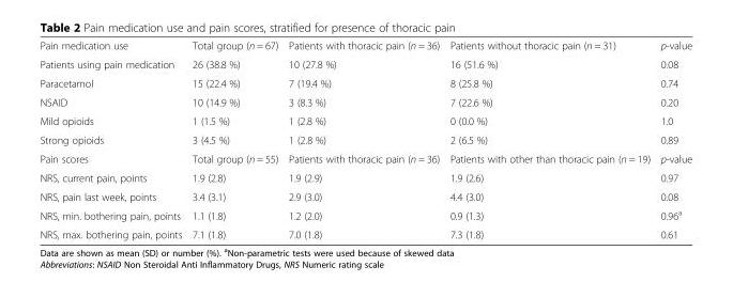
<table><tbody><tr><td>Pain medication use</td><td>Total group (n = 67)</td><td>Patients with thoracic pain (n = 36)</td><td>Patients without thoracic pain (n = 31)</td><td>p-value</td></tr><tr><td>Patients using pain medication</td><td>26 (38.8 %)</td><td>10 (27.8 %)</td><td>16 (51.6 %)</td><td>0.08</td></tr><tr><td>Paracetamol</td><td>15 (22.4 %)</td><td>7 (19.4 %)</td><td>8 (25.8 %)</td><td>0.74</td></tr><tr><td>NSAID</td><td>10 (14.9 %)</td><td>3 (8.3 %)</td><td>7 (22.6 %)</td><td>0.20</td></tr><tr><td>Mild opioids</td><td>1 (1.5 %)</td><td>1 (2.8 %)</td><td>0 (0.0 %)</td><td>1.0</td></tr><tr><td>Strong opioids</td><td>3 (4.5 %)</td><td>1 (2.8 %)</td><td>2 (6.5 %)</td><td>0.89</td></tr><tr><td>Pain scores</td><td>Total group (n = 55)</td><td>Patients with thoracic pain (n = 36)</td><td>Patients with other than thoracic pain (n = 19)</td><td>p-value</td></tr><tr><td>NRS, current pain, points</td><td>1.9 (2.8)</td><td>1.9 (2.9)</td><td>1.9 (2.6)</td><td>0.97</td></tr><tr><td>NRS, pain last week, points</td><td>3.4 (3.1)</td><td>2.9 (3.0)</td><td>4.4 (3.0)</td><td>0.08</td></tr><tr><td>NRS, min. bothering pain, points</td><td>1.1 (1.8)</td><td>1.2 (2.0)</td><td>0.9 (1.3)</td><td>0.96<sup>a</sup></td></tr><tr><td>NRS, max. bothering pain, points</td><td>7.1 (1.8)</td><td>7.0 (1.8)</td><td>7.3 (1.8)</td><td>0.61</td></tr></tbody></table>